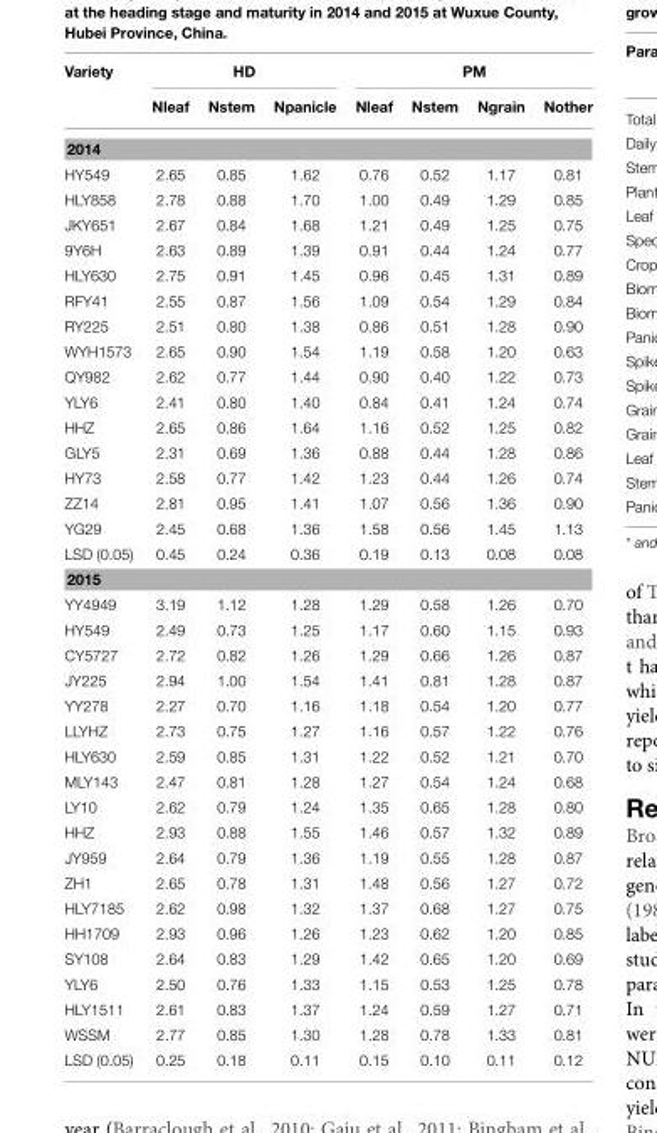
<table><thead><tr><td rowspan="2">Variety</td><td colspan="3">HD</td><td colspan="4">PM</td></tr><tr><td>Nleaf</td><td>Nstem</td><td>Npanicle</td><td>Nleaf</td><td>Nstem</td><td>Ngrain</td><td>Nother</td></tr></thead><tbody><tr><td colspan="8">2014</td></tr><tr><td>HY549</td><td>2.65</td><td>0.85</td><td>1.62</td><td>0.76</td><td>0.52</td><td>1.17</td><td>0.81</td></tr><tr><td>HLY858</td><td>2.78</td><td>0.88</td><td>1.70</td><td>1.00</td><td>0.49</td><td>1.29</td><td>0.85</td></tr><tr><td>JKY651</td><td>2.67</td><td>0.84</td><td>1.68</td><td>1.21</td><td>0.49</td><td>1.25</td><td>0.75</td></tr><tr><td>9Y6H</td><td>2.63</td><td>0.89</td><td>1.39</td><td>0.91</td><td>0.44</td><td>1.24</td><td>0.77</td></tr><tr><td>HLY630</td><td>2.75</td><td>0.91</td><td>1.45</td><td>0.96</td><td>0.45</td><td>1.31</td><td>0.89</td></tr><tr><td>RFY41</td><td>2.55</td><td>0.87</td><td>1.56</td><td>1.09</td><td>0.54</td><td>1.29</td><td>0.84</td></tr><tr><td>RY225</td><td>2.51</td><td>0.80</td><td>1.38</td><td>0.86</td><td>0.51</td><td>1.28</td><td>0.90</td></tr><tr><td>WYH1573</td><td>2.65</td><td>0.90</td><td>1.54</td><td>1.19</td><td>0.58</td><td>1.20</td><td>0.63</td></tr><tr><td>QY982</td><td>2.62</td><td>0.77</td><td>1.44</td><td>0.90</td><td>0.40</td><td>1.22</td><td>0.73</td></tr><tr><td>YLY6</td><td>2.41</td><td>0.80</td><td>1.40</td><td>0.84</td><td>0.41</td><td>1.24</td><td>0.74</td></tr><tr><td>HHZ</td><td>2.65</td><td>0.86</td><td>1.64</td><td>1.16</td><td>0.52</td><td>1.25</td><td>0.82</td></tr><tr><td>GLY5</td><td>2.31</td><td>0.69</td><td>1.36</td><td>0.88</td><td>0.44</td><td>1.28</td><td>0.86</td></tr><tr><td>HY73</td><td>2.58</td><td>0.77</td><td>1.42</td><td>1.23</td><td>0.44</td><td>1.26</td><td>0.74</td></tr><tr><td>ZZ14</td><td>2.81</td><td>0.95</td><td>1.41</td><td>1.07</td><td>0.56</td><td>1.36</td><td>0.90</td></tr><tr><td>YG29</td><td>2.45</td><td>0.68</td><td>1.36</td><td>1.58</td><td>0.56</td><td>1.45</td><td>1.13</td></tr><tr><td>LSD (0.05)</td><td>0.45</td><td>0.24</td><td>0.36</td><td>0.19</td><td>0.13</td><td>0.08</td><td>0.08</td></tr><tr><td colspan="8">2015</td></tr><tr><td>YY4949</td><td>3.19</td><td>1.12</td><td>1.28</td><td>1.29</td><td>0.58</td><td>1.26</td><td>0.70</td></tr><tr><td>HY549</td><td>2.49</td><td>0.73</td><td>1.25</td><td>1.17</td><td>0.60</td><td>1.15</td><td>0.93</td></tr><tr><td>CY5727</td><td>2.72</td><td>0.82</td><td>1.26</td><td>1.29</td><td>0.66</td><td>1.26</td><td>0.87</td></tr><tr><td>JY225</td><td>2.94</td><td>1.00</td><td>1.54</td><td>1.41</td><td>0.81</td><td>1.28</td><td>0.87</td></tr><tr><td>YY278</td><td>2.27</td><td>0.70</td><td>1.16</td><td>1.18</td><td>0.54</td><td>1.20</td><td>0.77</td></tr><tr><td>LLYHZ</td><td>2.73</td><td>0.75</td><td>1.27</td><td>1.16</td><td>0.57</td><td>1.22</td><td>0.76</td></tr><tr><td>HLY630</td><td>2.59</td><td>0.85</td><td>1.31</td><td>1.22</td><td>0.52</td><td>1.21</td><td>0.70</td></tr><tr><td>MLY143</td><td>2.47</td><td>0.81</td><td>1.28</td><td>1.27</td><td>0.54</td><td>1.24</td><td>0.68</td></tr><tr><td>LY10</td><td>2.62</td><td>0.79</td><td>1.24</td><td>1.35</td><td>0.65</td><td>1.28</td><td>0.80</td></tr><tr><td>HHZ</td><td>2.93</td><td>0.88</td><td>1.55</td><td>1.46</td><td>0.57</td><td>1.32</td><td>0.89</td></tr><tr><td>JY959</td><td>2.64</td><td>0.79</td><td>1.36</td><td>1.19</td><td>0.55</td><td>1.28</td><td>0.87</td></tr><tr><td>ZH1</td><td>2.65</td><td>0.78</td><td>1.31</td><td>1.48</td><td>0.56</td><td>1.27</td><td>0.72</td></tr><tr><td>HLY7185</td><td>2.62</td><td>0.98</td><td>1.32</td><td>1.37</td><td>0.68</td><td>1.27</td><td>0.75</td></tr><tr><td>HH1709</td><td>2.93</td><td>0.96</td><td>1.26</td><td>1.23</td><td>0.62</td><td>1.20</td><td>0.85</td></tr><tr><td>SY108</td><td>2.64</td><td>0.83</td><td>1.29</td><td>1.42</td><td>0.65</td><td>1.20</td><td>0.69</td></tr><tr><td>YLY6</td><td>2.50</td><td>0.76</td><td>1.33</td><td>1.15</td><td>0.53</td><td>1.25</td><td>0.78</td></tr><tr><td>HLY1511</td><td>2.61</td><td>0.83</td><td>1.37</td><td>1.24</td><td>0.59</td><td>1.27</td><td>0.71</td></tr><tr><td>WSSM</td><td>2.77</td><td>0.85</td><td>1.30</td><td>1.28</td><td>0.78</td><td>1.33</td><td>0.81</td></tr><tr><td>LSD (0.05)</td><td>0.25</td><td>0.18</td><td>0.11</td><td>0.15</td><td>0.10</td><td>0.11</td><td>0.12</td></tr></tbody></table>